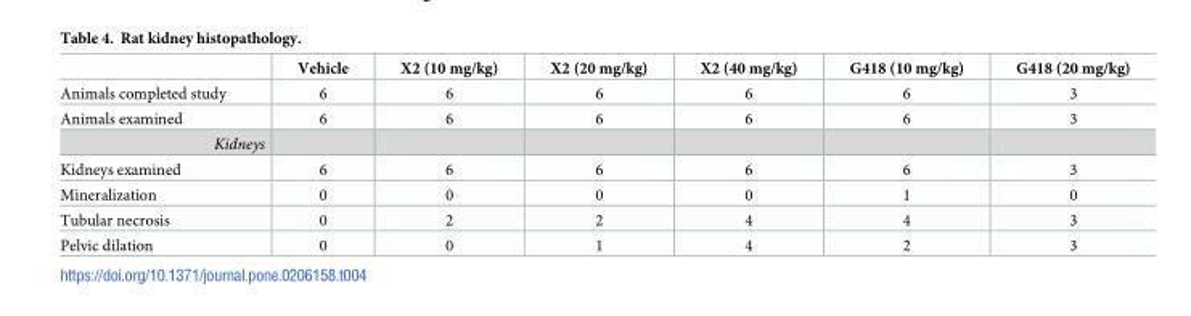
<table><thead><tr><td></td><td>Vehicle</td><td>X2 (10 mg/kg)</td><td>X2 (20 mg/kg)</td><td>X2 (40 mg/kg)</td><td>G418 (10 mg/kg)</td><td>G418 (20 mg/kg)</td></tr></thead><tbody><tr><td>Animals completed study</td><td>6</td><td>6</td><td>6</td><td>6</td><td>6</td><td>3</td></tr><tr><td>Animals examined</td><td>6</td><td>6</td><td>6</td><td>6</td><td>6</td><td>3</td></tr><tr><td colspan="7">Kidneys</td></tr><tr><td>Kidneys examined</td><td>6</td><td>6</td><td>6</td><td>6</td><td>6</td><td>3</td></tr><tr><td>Mineralization</td><td>0</td><td>0</td><td>0</td><td>0</td><td>1</td><td>0</td></tr><tr><td>Tubular necrosis</td><td>0</td><td>2</td><td>2</td><td>4</td><td>4</td><td>3</td></tr><tr><td>Pelvic dilation</td><td>0</td><td>0</td><td>1</td><td>4</td><td>2</td><td>3</td></tr></tbody></table>